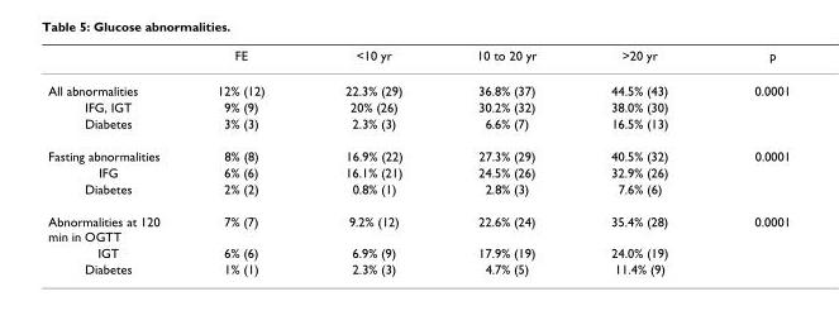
<table><thead><tr><td></td><td>FE</td><td>&lt;10 yr</td><td>10 to 20 yr</td><td>&gt;20 yr</td><td>p</td></tr></thead><tbody><tr><td>All abnormalities</td><td>12% (12)</td><td>22.3% (29)</td><td>36.8% (37)</td><td>44.5% (43)</td><td>0.0001</td></tr><tr><td>IFG, IGT</td><td>9% (9)</td><td>20% (26)</td><td>30.2% (32)</td><td>38.0% (30)</td><td></td></tr><tr><td>Diabetes</td><td>3% (3)</td><td>2.3% (3)</td><td>6.6% (7)</td><td>16.5% (13)</td><td></td></tr><tr><td>Fasting abnormalities</td><td>8% (8)</td><td>16.9% (22)</td><td>27.3% (29)</td><td>40.5% (32)</td><td>0.0001</td></tr><tr><td>IFG</td><td>6% (6)</td><td>16.1% (21)</td><td>24.5% (26)</td><td>32.9% (26)</td><td></td></tr><tr><td>Diabetes</td><td>2% (2)</td><td>0.8% (1)</td><td>2.8% (3)</td><td>7.6% (6)</td><td></td></tr><tr><td>Abnormalities at 120 min in OGTT</td><td>7% (7)</td><td>9.2% (12)</td><td>22.6% (24)</td><td>35.4% (28)</td><td>0.0001</td></tr><tr><td>IGT</td><td>6% (6)</td><td>6.9% (9)</td><td>17.9% (19)</td><td>24.0% (19)</td><td></td></tr><tr><td>Diabetes</td><td>1% (1)</td><td>2.3% (3)</td><td>4.7% (5)</td><td>11.4% (9)</td><td></td></tr></tbody></table>